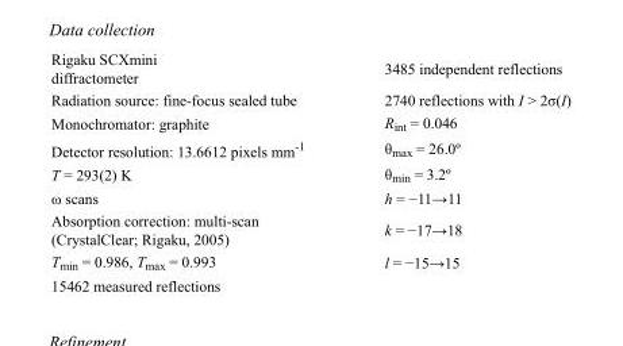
<table><tbody><tr><td>Rigaku SCXmini diffractometer</td><td>3485 independent reflections</td></tr><tr><td>Radiation source: fine-focus sealed tube</td><td>2740 reflections with I &gt; 2σ(I)</td></tr><tr><td>Monochromator: graphite</td><td>R<sub>int</sub> = 0.046</td></tr><tr><td>Detector resolution: 13.6612 pixels mm<sup>-1</sup></td><td>θ<sub>max</sub> = 26.0º</td></tr><tr><td>T = 293(2) K</td><td>θ<sub>min</sub> = 3.2º</td></tr><tr><td>ω scans</td><td>h = −11→11</td></tr><tr><td>Absorption correction: multi-scan (CrystalClear; Rigaku, 2005)</td><td>k = −17→18</td></tr><tr><td>T<sub>min</sub> = 0.986, T<sub>max</sub> = 0.993</td><td>l = −15→15</td></tr><tr><td>15462 measured reflections</td><td></td></tr></tbody></table>